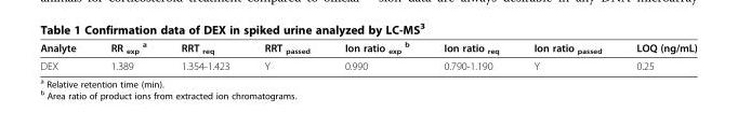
<table><thead><tr><td>Analyte</td><td>RR <sub>exp</sub> <sup>a</sup></td><td>RRT <sub>req</sub></td><td>RRT <sub>passed</sub></td><td>Ion ratio <sub>exp</sub> <sup>b</sup></td><td>Ion ratio <sub>req</sub></td><td>Ion ratio <sub>passed</sub></td><td>LOQ (ng/mL)</td></tr></thead><tbody><tr><td>DEX</td><td>1.389</td><td>1.354-1.423</td><td>Y</td><td>0.990</td><td>0.790-1.190</td><td>Y</td><td>0.25</td></tr></tbody></table>